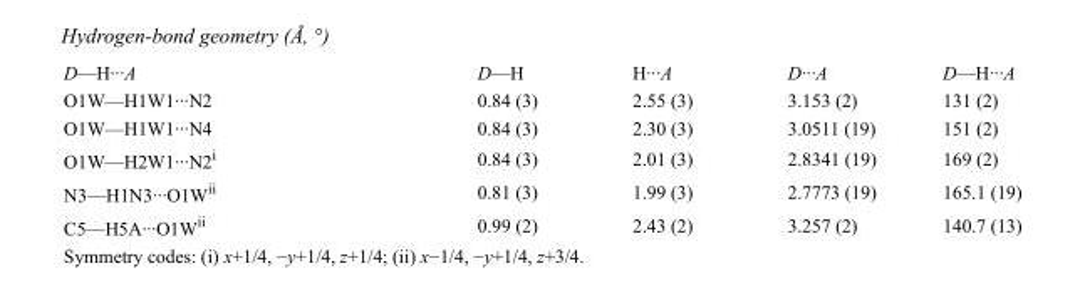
<table><tbody><tr><td>D—H···A</td><td>D—H</td><td>H···A</td><td>D···A</td><td>D—H···A</td></tr><tr><td>O1W—H1W1···N2</td><td>0.84 (3)</td><td>2.55 (3)</td><td>3.153 (2)</td><td>131 (2)</td></tr><tr><td>O1W—H1W1···N4</td><td>0.84 (3)</td><td>2.30 (3)</td><td>3.0511 (19)</td><td>151 (2)</td></tr><tr><td>O1W—H2W1···N2<sup>i</sup></td><td>0.84 (3)</td><td>2.01 (3)</td><td>2.8341 (19)</td><td>169 (2)</td></tr><tr><td>N3—H1N3···O1W<sup>ii</sup></td><td>0.81 (3)</td><td>1.99 (3)</td><td>2.7773 (19)</td><td>165.1 (19)</td></tr><tr><td>C5—H5A···O1W<sup>ii</sup></td><td>0.99 (2)</td><td>2.43 (2)</td><td>3.257 (2)</td><td>140.7 (13)</td></tr></tbody></table>